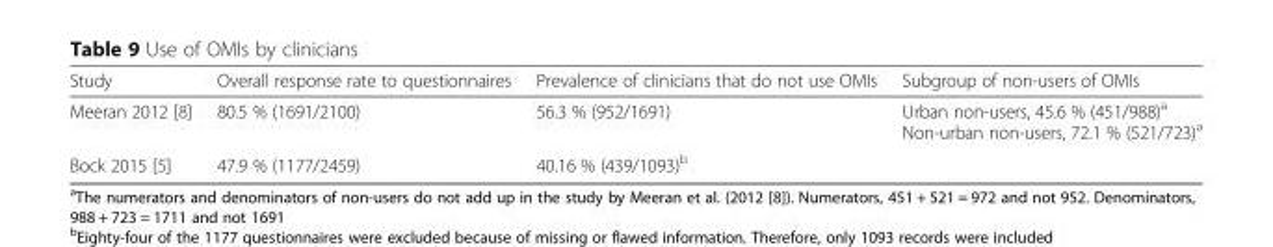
<table><thead><tr><td>Study</td><td>Overall response rate to questionnaires</td><td>Prevalence of clinicians that do not use OMIs</td><td>Subgroup of non-users of OMIs</td></tr></thead><tbody><tr><td>Meeran 2012 [8]</td><td>80.5 % (1691/2100)</td><td>56.3 % (952/1691)</td><td>Urban non-users, 45.6 % (451/988)<sup>a</sup> Non-urban non-users, 72.1 % (521/723)<sup>a</sup></td></tr><tr><td>Bock 2015 [5]</td><td>47.9 % (1177/2459)</td><td>40.16 % (439/1093)<sup>b</sup></td><td></td></tr></tbody></table>